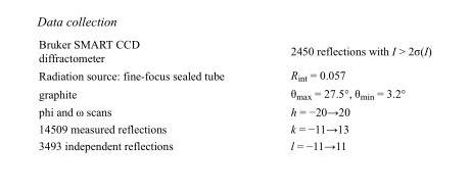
<table><tbody><tr><td>Bruker SMART CCD diffractometer</td><td>2450 reflections with I &gt; 2σ(I)</td></tr><tr><td>Radiation source: fine-focus sealed tube</td><td>R<sub>int</sub> = 0.057</td></tr><tr><td>graphite</td><td>θ<sub>max</sub> = 27.5°, θ<sub>min</sub> = 3.2°</td></tr><tr><td>phi and ω scans</td><td>h = −20→20</td></tr><tr><td>14509 measured reflections</td><td>k = −11→13</td></tr><tr><td>3493 independent reflections</td><td>l = −11→11</td></tr></tbody></table>